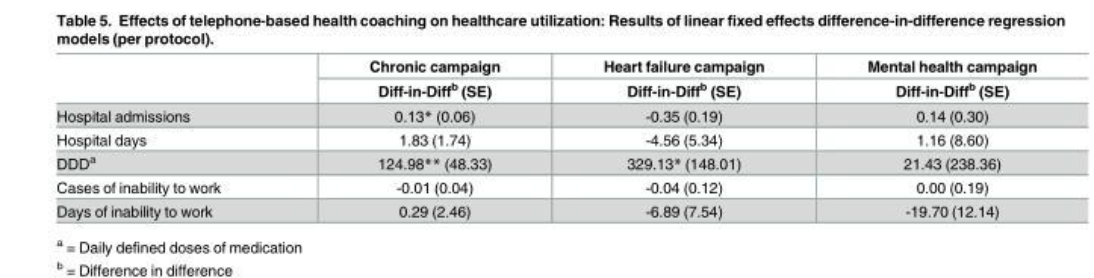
<table><thead><tr><td rowspan="2"></td><td rowspan="2">Chronic campaign Diff-in-Diff<sup>b</sup> (SE)</td><td rowspan="2">Heart failure campaign Diff-in-Diff<sup>b</sup> (SE)</td><td rowspan="2">Mental health campaign Diff-in-Diff<sup>b</sup> (SE)</td></tr><tr></tr></thead><tbody><tr><td>Hospital admissions</td><td>0.13* (0.06)</td><td>-0.35 (0.19)</td><td>0.14 (0.30)</td></tr><tr><td>Hospital days</td><td>1.83 (1.74)</td><td>-4.56 (5.34)</td><td>1.16 (8.60)</td></tr><tr><td>DDD<sup>a</sup></td><td>124.98** (48.33)</td><td>329.13* (148.01)</td><td>21.43 (238.36)</td></tr><tr><td>Cases of inability to work</td><td>-0.01 (0.04)</td><td>-0.04 (0.12)</td><td>0.00 (0.19)</td></tr><tr><td>Days of inability to work</td><td>0.29 (2.46)</td><td>-6.89 (7.54)</td><td>-19.70 (12.14)</td></tr></tbody></table>